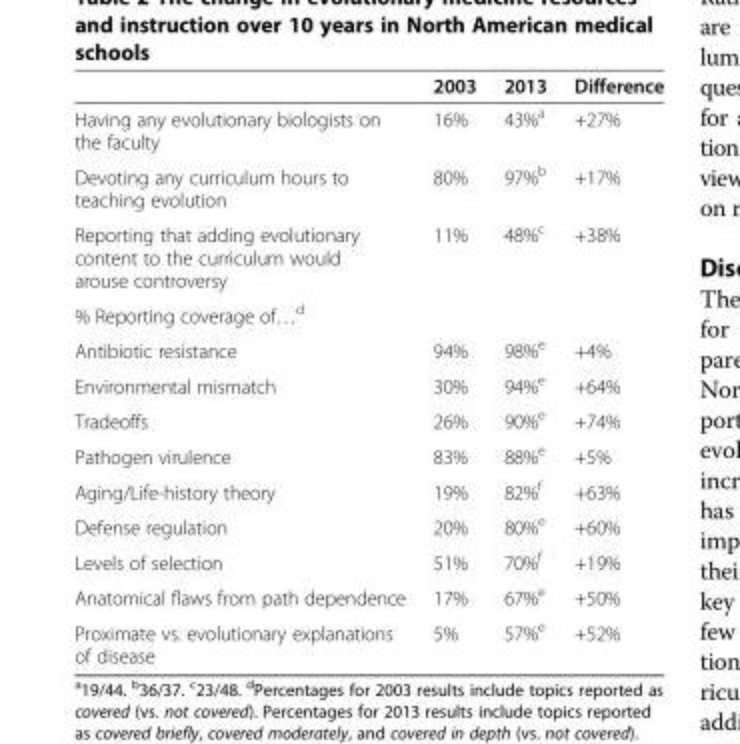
<table><thead><tr><td></td><td>2003</td><td>2013</td><td>Difference</td></tr></thead><tbody><tr><td>Having any evolutionary biologists on the faculty</td><td>16%</td><td>43%<sup>a</sup></td><td>+27%</td></tr><tr><td>Devoting any curriculum hours to teaching evolution</td><td>80%</td><td>97%<sup>b</sup></td><td>+17%</td></tr><tr><td>Reporting that adding evolutionary content to the curriculum would arouse controversy</td><td>11%</td><td>48%<sup>c</sup></td><td>+38%</td></tr><tr><td colspan="4">% Reporting coverage of…<sup>d</sup></td></tr><tr><td>Antibiotic resistance</td><td>94%</td><td>98%<sup>e</sup></td><td>+4%</td></tr><tr><td>Environmental mismatch</td><td>30%</td><td>94%<sup>e</sup></td><td>+64%</td></tr><tr><td>Tradeoffs</td><td>26%</td><td>90%<sup>e</sup></td><td>+74%</td></tr><tr><td>Pathogen virulence</td><td>83%</td><td>88%<sup>e</sup></td><td>+5%</td></tr><tr><td>Aging/Life-history theory</td><td>19%</td><td>82%<sup>f</sup></td><td>+63%</td></tr><tr><td>Defense regulation</td><td>20%</td><td>80%<sup>e</sup></td><td>+60%</td></tr><tr><td>Levels of selection</td><td>51%</td><td>70%<sup>f</sup></td><td>+19%</td></tr><tr><td>Anatomical flaws from path dependence</td><td>17%</td><td>67%<sup>e</sup></td><td>+50%</td></tr><tr><td>Proximate vs. evolutionary explanations of disease</td><td>5%</td><td>57%<sup>e</sup></td><td>+52%</td></tr></tbody></table>